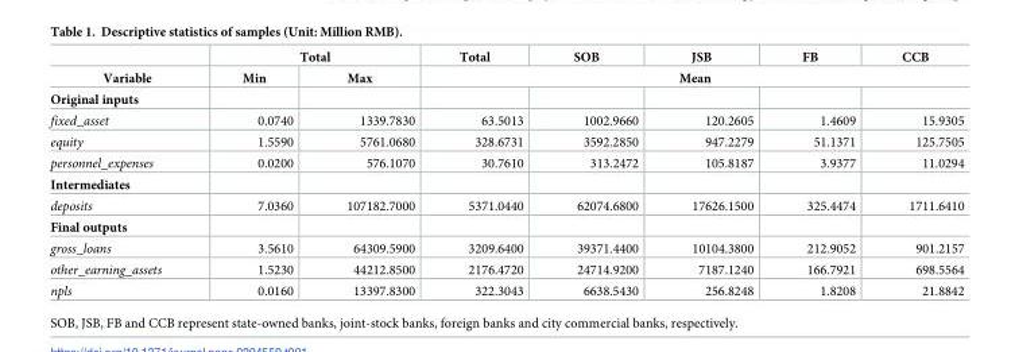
<table><thead><tr><td rowspan="2">Variable</td><td colspan="2">Total</td><td>Total</td><td>SOB</td><td>JSB</td><td>FB</td><td>CCB</td></tr><tr><td>Min</td><td>Max</td><td colspan="5">Mean</td></tr></thead><tbody><tr><td colspan="8">Original inputs</td></tr><tr><td>fixed_asset</td><td>0.0740</td><td>1339.7830</td><td>63.5013</td><td>1002.9660</td><td>120.2605</td><td>1.4609</td><td>15.9305</td></tr><tr><td>equity</td><td>1.5590</td><td>5761.0680</td><td>328.6731</td><td>3592.2850</td><td>947.2279</td><td>51.1371</td><td>125.7505</td></tr><tr><td>personnel_expenses</td><td>0.0200</td><td>576.1070</td><td>30.7610</td><td>313.2472</td><td>105.8187</td><td>3.9377</td><td>11.0294</td></tr><tr><td colspan="8">Intermediates</td></tr><tr><td>deposits</td><td>7.0360</td><td>107182.7000</td><td>5371.0440</td><td>62074.6800</td><td>17626.1500</td><td>325.4474</td><td>1711.6410</td></tr><tr><td colspan="8">Final outputs</td></tr><tr><td>gross_loans</td><td>3.5610</td><td>64309.5900</td><td>3209.6400</td><td>39371.4400</td><td>10104.3800</td><td>212.9052</td><td>901.2157</td></tr><tr><td>other_earning_assets</td><td>1.5230</td><td>44212.8500</td><td>2176.4720</td><td>24714.9200</td><td>7187.1240</td><td>166.7921</td><td>698.5564</td></tr><tr><td>npls</td><td>0.0160</td><td>13397.8300</td><td>322.3043</td><td>6638.5430</td><td>256.8248</td><td>1.8208</td><td>21.8842</td></tr></tbody></table>